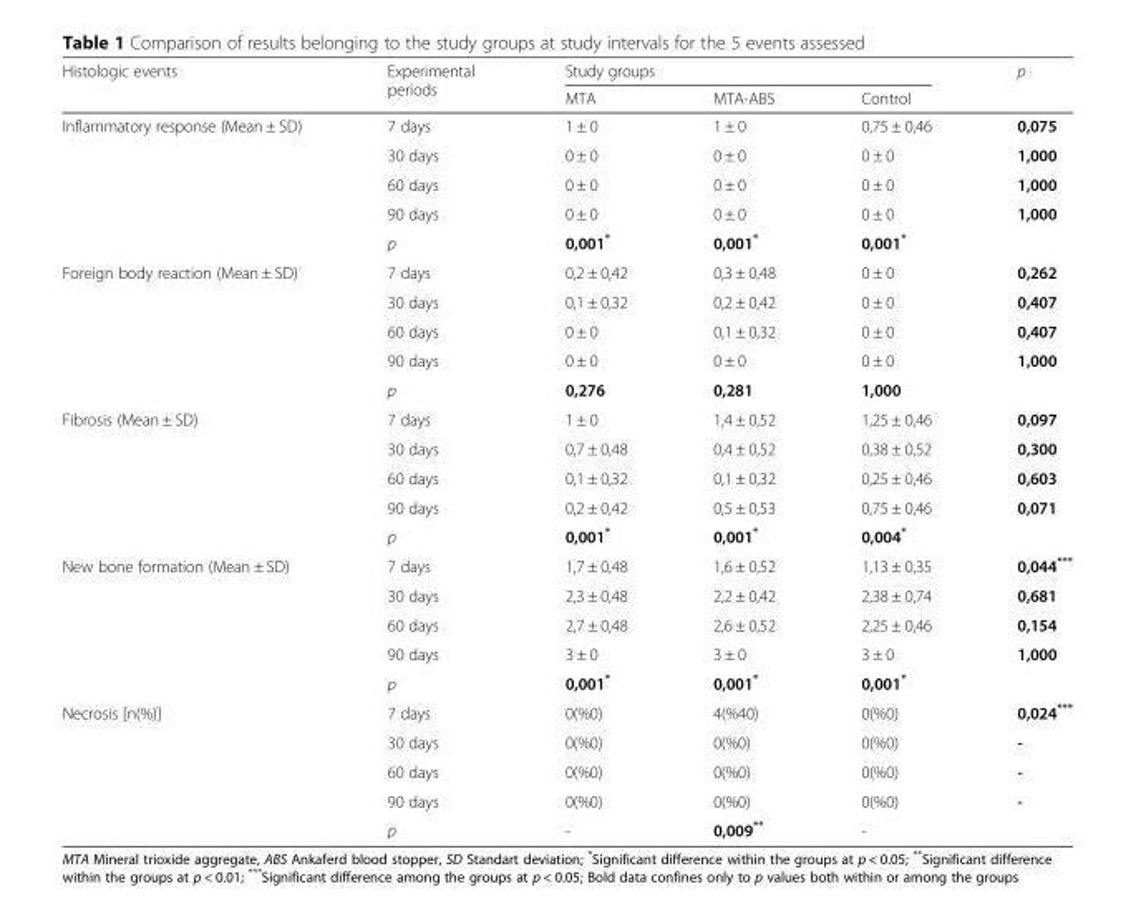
<table><thead><tr><td rowspan="2">Histologic events</td><td rowspan="2">Experimental periods</td><td colspan="3">Study groups</td><td rowspan="2">p</td></tr><tr><td>MTA</td><td>MTA-ABS</td><td>Control</td></tr></thead><tbody><tr><td rowspan="5">Inflammatory response (Mean ± SD)</td><td>7 days</td><td>1 ± 0</td><td>1 ± 0</td><td>0,75 ± 0,46</td><td>0,075</td></tr><tr><td>30 days</td><td>0 ± 0</td><td>0 ± 0</td><td>0 ± 0</td><td>1,000</td></tr><tr><td>60 days</td><td>0 ± 0</td><td>0 ± 0</td><td>0 ± 0</td><td>1,000</td></tr><tr><td>90 days</td><td>0 ± 0</td><td>0 ± 0</td><td>0 ± 0</td><td>1,000</td></tr><tr><td>p</td><td>0,001*</td><td>0,001*</td><td>0,001*</td><td></td></tr><tr><td rowspan="5">Foreign body reaction (Mean ± SD)</td><td>7 days</td><td>0,2 ± 0,42</td><td>0,3 ± 0,48</td><td>0 ± 0</td><td>0,262</td></tr><tr><td>30 days</td><td>0,1 ± 0,32</td><td>0,2 ± 0,42</td><td>0 ± 0</td><td>0,407</td></tr><tr><td>60 days</td><td>0 ± 0</td><td>0,1 ± 0,32</td><td>0 ± 0</td><td>0,407</td></tr><tr><td>90 days</td><td>0 ± 0</td><td>0 ± 0</td><td>0 ± 0</td><td>1,000</td></tr><tr><td>p</td><td>0,276</td><td>0,281</td><td>1,000</td><td></td></tr><tr><td rowspan="5">Fibrosis (Mean ± SD)</td><td>7 days</td><td>1 ± 0</td><td>1,4 ± 0,52</td><td>1,25 ± 0,46</td><td>0,097</td></tr><tr><td>30 days</td><td>0,7 ± 0,48</td><td>0,4 ± 0,52</td><td>0,38 ± 0,52</td><td>0,300</td></tr><tr><td>60 days</td><td>0,1 ± 0,32</td><td>0,1 ± 0,32</td><td>0,25 ± 0,46</td><td>0,603</td></tr><tr><td>90 days</td><td>0,2 ± 0,42</td><td>0,5 ± 0,53</td><td>0,75 ± 0,46</td><td>0,071</td></tr><tr><td>p</td><td>0,001*</td><td>0,001*</td><td>0,004*</td><td></td></tr><tr><td rowspan="5">New bone formation (Mean ± SD)</td><td>7 days</td><td>1,7 ± 0,48</td><td>1,6 ± 0,52</td><td>1,13 ± 0,35</td><td>0,044***</td></tr><tr><td>30 days</td><td>2,3 ± 0,48</td><td>2,2 ± 0,42</td><td>2,38 ± 0,74</td><td>0,681</td></tr><tr><td>60 days</td><td>2,7 ± 0,48</td><td>2,6 ± 0,52</td><td>2,25 ± 0,46</td><td>0,154</td></tr><tr><td>90 days</td><td>3 ± 0</td><td>3 ± 0</td><td>3 ± 0</td><td>1,000</td></tr><tr><td>p</td><td>0,001*</td><td>0,001*</td><td>0,001*</td><td></td></tr><tr><td rowspan="5">Necrosis [n(%)]</td><td>7 days</td><td>0(%0)</td><td>4(%40)</td><td>0(%0)</td><td>0,024***</td></tr><tr><td>30 days</td><td>0(%0)</td><td>0(%0)</td><td>0(%0)</td><td>-</td></tr><tr><td>60 days</td><td>0(%0)</td><td>0(%0)</td><td>0(%0)</td><td>-</td></tr><tr><td>90 days</td><td>0(%0)</td><td>0(%0)</td><td>0(%0)</td><td>-</td></tr><tr><td>p</td><td>-</td><td>0,009**</td><td>-</td><td></td></tr></tbody></table>